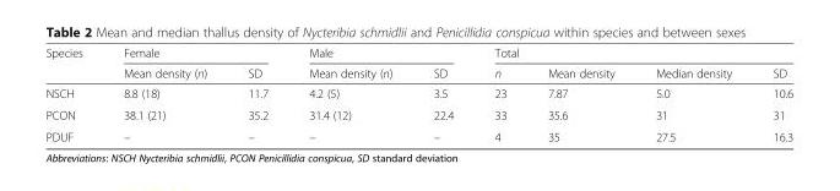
<table><thead><tr><td rowspan="2">Species</td><td colspan="2">Female</td><td colspan="2">Male</td><td colspan="4">Total</td></tr><tr><td>Mean density (n)</td><td>SD</td><td>Mean density (n)</td><td>SD</td><td>n</td><td>Mean density</td><td>Median density</td><td>SD</td></tr></thead><tbody><tr><td>NSCH</td><td>8.8 (18)</td><td>11.7</td><td>4.2 (5)</td><td>3.5</td><td>23</td><td>7.87</td><td>5.0</td><td>10.6</td></tr><tr><td>PCON</td><td>38.1 (21)</td><td>35.2</td><td>31.4 (12)</td><td>22.4</td><td>33</td><td>35.6</td><td>31</td><td>31</td></tr><tr><td>PDUF</td><td>–</td><td>–</td><td>–</td><td>–</td><td>4</td><td>35</td><td>27.5</td><td>16.3</td></tr></tbody></table>